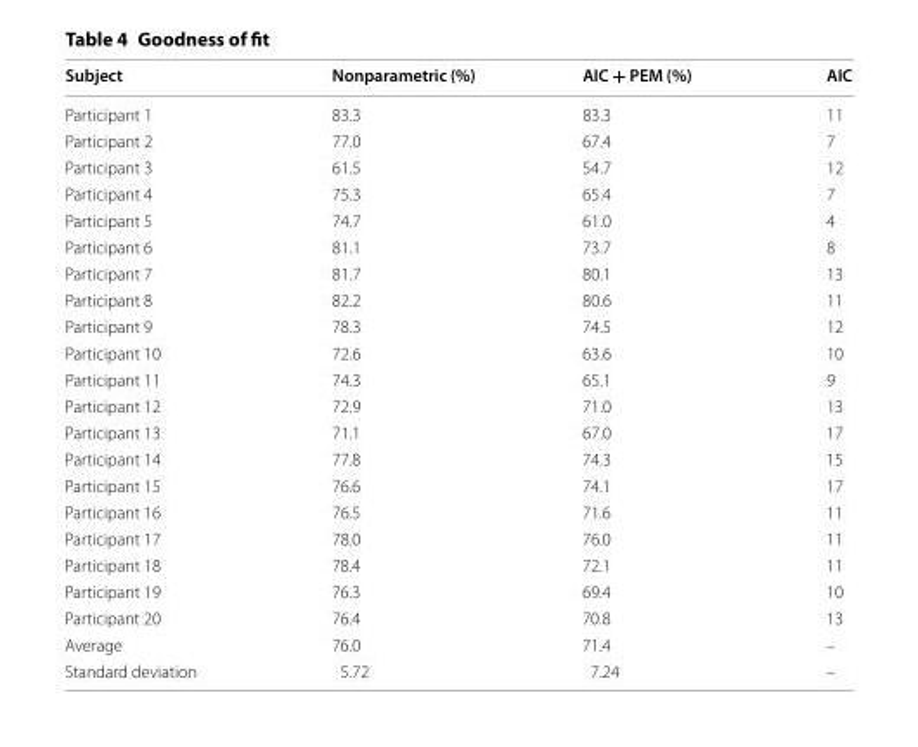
<table><thead><tr><td>Subject</td><td>Nonparametric (%)</td><td>AIC + PEM (%)</td><td>AIC</td></tr></thead><tbody><tr><td>Participant 1</td><td>83.3</td><td>83.3</td><td>11</td></tr><tr><td>Participant 2</td><td>77.0</td><td>67.4</td><td>7</td></tr><tr><td>Participant 3</td><td>61.5</td><td>54.7</td><td>12</td></tr><tr><td>Participant 4</td><td>75.3</td><td>65.4</td><td>7</td></tr><tr><td>Participant 5</td><td>74.7</td><td>61.0</td><td>4</td></tr><tr><td>Participant 6</td><td>81.1</td><td>73.7</td><td>8</td></tr><tr><td>Participant 7</td><td>81.7</td><td>80.1</td><td>13</td></tr><tr><td>Participant 8</td><td>82.2</td><td>80.6</td><td>11</td></tr><tr><td>Participant 9</td><td>78.3</td><td>74.5</td><td>12</td></tr><tr><td>Participant 10</td><td>72.6</td><td>63.6</td><td>10</td></tr><tr><td>Participant 11</td><td>74.3</td><td>65.1</td><td>9</td></tr><tr><td>Participant 12</td><td>72.9</td><td>71.0</td><td>13</td></tr><tr><td>Participant 13</td><td>71.1</td><td>67.0</td><td>17</td></tr><tr><td>Participant 14</td><td>77.8</td><td>74.3</td><td>15</td></tr><tr><td>Participant 15</td><td>76.6</td><td>74.1</td><td>17</td></tr><tr><td>Participant 16</td><td>76.5</td><td>71.6</td><td>11</td></tr><tr><td>Participant 17</td><td>78.0</td><td>76.0</td><td>11</td></tr><tr><td>Participant 18</td><td>78.4</td><td>72.1</td><td>11</td></tr><tr><td>Participant 19</td><td>76.3</td><td>69.4</td><td>10</td></tr><tr><td>Participant 20</td><td>76.4</td><td>70.8</td><td>13</td></tr><tr><td>Average</td><td>76.0</td><td>71.4</td><td>–</td></tr><tr><td>Standard deviation</td><td>5.72</td><td>7.24</td><td>–</td></tr></tbody></table>